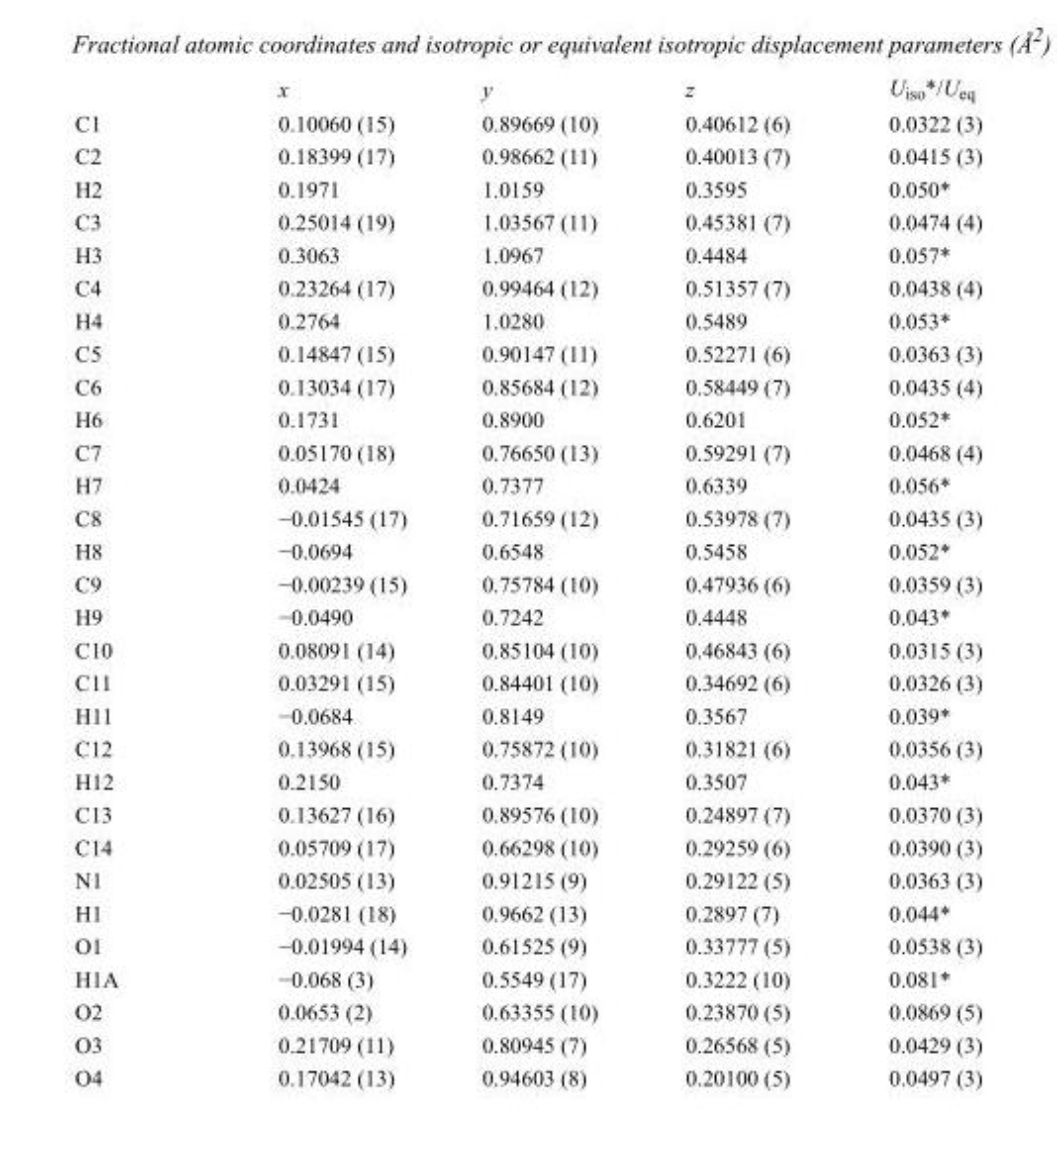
<table><thead><tr><td></td><td>x</td><td>y</td><td>z</td><td>U<sub>iso</sub>*/U<sub>eq</sub></td></tr></thead><tbody><tr><td>C1</td><td>0.10060 (15)</td><td>0.89669 (10)</td><td>0.40612 (6)</td><td>0.0322 (3)</td></tr><tr><td>C2</td><td>0.18399 (17)</td><td>0.98662 (11)</td><td>0.40013 (7)</td><td>0.0415 (3)</td></tr><tr><td>H2</td><td>0.1971</td><td>1.0159</td><td>0.3595</td><td>0.050*</td></tr><tr><td>C3</td><td>0.25014 (19)</td><td>1.03567 (11)</td><td>0.45381 (7)</td><td>0.0474 (4)</td></tr><tr><td>H3</td><td>0.3063</td><td>1.0967</td><td>0.4484</td><td>0.057*</td></tr><tr><td>C4</td><td>0.23264 (17)</td><td>0.99464 (12)</td><td>0.51357 (7)</td><td>0.0438 (4)</td></tr><tr><td>H4</td><td>0.2764</td><td>1.0280</td><td>0.5489</td><td>0.053*</td></tr><tr><td>C5</td><td>0.14847 (15)</td><td>0.90147 (11)</td><td>0.52271 (6)</td><td>0.0363 (3)</td></tr><tr><td>C6</td><td>0.13034 (17)</td><td>0.85684 (12)</td><td>0.58449 (7)</td><td>0.0435 (4)</td></tr><tr><td>H6</td><td>0.1731</td><td>0.8900</td><td>0.6201</td><td>0.052*</td></tr><tr><td>C7</td><td>0.05170 (18)</td><td>0.76650 (13)</td><td>0.59291 (7)</td><td>0.0468 (4)</td></tr><tr><td>H7</td><td>0.0424</td><td>0.7377</td><td>0.6339</td><td>0.056*</td></tr><tr><td>C8</td><td>−0.01545 (17)</td><td>0.71659 (12)</td><td>0.53978 (7)</td><td>0.0435 (3)</td></tr><tr><td>H8</td><td>−0.0694</td><td>0.6548</td><td>0.5458</td><td>0.052*</td></tr><tr><td>C9</td><td>−0.00239 (15)</td><td>0.75784 (10)</td><td>0.47936 (6)</td><td>0.0359 (3)</td></tr><tr><td>H9</td><td>−0.0490</td><td>0.7242</td><td>0.4448</td><td>0.043*</td></tr><tr><td>C10</td><td>0.08091 (14)</td><td>0.85104 (10)</td><td>0.46843 (6)</td><td>0.0315 (3)</td></tr><tr><td>C11</td><td>0.03291 (15)</td><td>0.84401 (10)</td><td>0.34692 (6)</td><td>0.0326 (3)</td></tr><tr><td>H11</td><td>−0.0684</td><td>0.8149</td><td>0.3567</td><td>0.039*</td></tr><tr><td>C12</td><td>0.13968 (15)</td><td>0.75872 (10)</td><td>0.31821 (6)</td><td>0.0356 (3)</td></tr><tr><td>H12</td><td>0.2150</td><td>0.7374</td><td>0.3507</td><td>0.043*</td></tr><tr><td>C13</td><td>0.13627 (16)</td><td>0.89576 (10)</td><td>0.24897 (7)</td><td>0.0370 (3)</td></tr><tr><td>C14</td><td>0.05709 (17)</td><td>0.66298 (10)</td><td>0.29259 (6)</td><td>0.0390 (3)</td></tr><tr><td>N1</td><td>0.02505 (13)</td><td>0.91215 (9)</td><td>0.29122 (5)</td><td>0.0363 (3)</td></tr><tr><td>H1</td><td>−0.0281 (18)</td><td>0.9662 (13)</td><td>0.2897 (7)</td><td>0.044*</td></tr><tr><td>O1</td><td>−0.01994 (14)</td><td>0.61525 (9)</td><td>0.33777 (5)</td><td>0.0538 (3)</td></tr><tr><td>H1A</td><td>−0.068 (3)</td><td>0.5549 (17)</td><td>0.3222 (10)</td><td>0.081*</td></tr><tr><td>O2</td><td>0.0653 (2)</td><td>0.63355 (10)</td><td>0.23870 (5)</td><td>0.0869 (5)</td></tr><tr><td>O3</td><td>0.21709 (11)</td><td>0.80945 (7)</td><td>0.26568 (5)</td><td>0.0429 (3)</td></tr><tr><td>O4</td><td>0.17042 (13)</td><td>0.94603 (8)</td><td>0.20100 (5)</td><td>0.0497 (3)</td></tr></tbody></table>